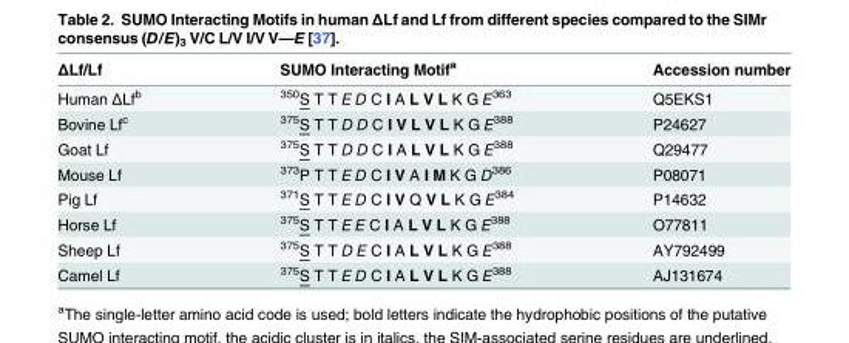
<table><thead><tr><td>ΔLf/Lf</td><td>SUMO Interacting Motif<sup>a</sup></td><td>Accession number</td></tr></thead><tbody><tr><td>Human ΔLf<sup>b</sup></td><td><sup>350</sup>S T T E D C I A L V L K G E<sup>363</sup></td><td>Q5EKS1</td></tr><tr><td>Bovine Lf<sup>c</sup></td><td><sup>375</sup>S T T D D C I V L V L K G E<sup>388</sup></td><td>P24627</td></tr><tr><td>Goat Lf</td><td><sup>375</sup>S T T D D C I A L V L K G E<sup>388</sup></td><td>Q29477</td></tr><tr><td>Mouse Lf</td><td><sup>373</sup>P T T E D C I V A I M K G D<sup>386</sup></td><td>P08071</td></tr><tr><td>Pig Lf</td><td><sup>371</sup>S T T E D C I V Q V L K G E<sup>384</sup></td><td>P14632</td></tr><tr><td>Horse Lf</td><td><sup>375</sup>S T T E E C I A L V L K G E<sup>388</sup></td><td>O77811</td></tr><tr><td>Sheep Lf</td><td><sup>375</sup>S T T D E C I A L V L K G E<sup>388</sup></td><td>AY792499</td></tr><tr><td>Camel Lf</td><td><sup>375</sup>S T T E D C I A L V L K G E<sup>388</sup></td><td>AJ131674</td></tr></tbody></table>